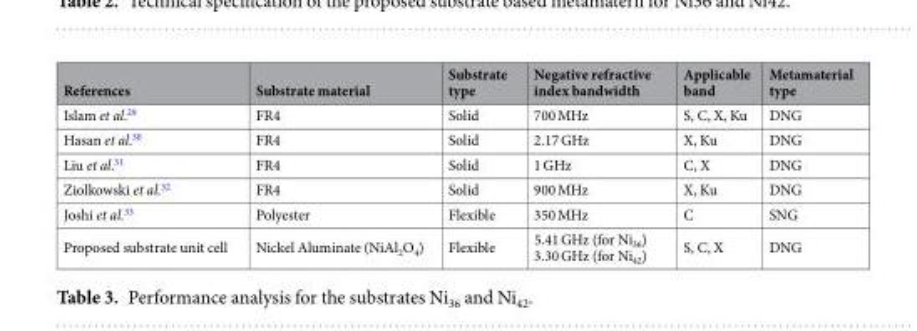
<table><thead><tr><td>References</td><td>Substrate material</td><td>Substrate type</td><td>Negative refractive index bandwidth</td><td>Applicable band</td><td>Metamaterial type</td></tr></thead><tbody><tr><td>Islam et al.<sup>29</sup></td><td>FR4</td><td>Solid</td><td>700 MHz</td><td>S, C, X, Ku</td><td>DNG</td></tr><tr><td>Hasan et al.<sup>30</sup></td><td>FR4</td><td>Solid</td><td>2.17 GHz</td><td>X, Ku</td><td>DNG</td></tr><tr><td>Liu et al.<sup>31</sup></td><td>FR4</td><td>Solid</td><td>1 GHz</td><td>C, X</td><td>DNG</td></tr><tr><td>Ziolkowski et al.<sup>32</sup></td><td>FR4</td><td>Solid</td><td>900 MHz</td><td>X, Ku</td><td>DNG</td></tr><tr><td>Joshi et al.<sup>33</sup></td><td>Polyester</td><td>Flexible</td><td>350 MHz</td><td>C</td><td>SNG</td></tr><tr><td>Proposed substrate unit cell</td><td>Nickel Aluminate (NiAl<sub>2</sub>O<sub>4</sub>)</td><td>Flexible</td><td>5.41 GHz (for Ni<sub>36</sub>) 3.30 GHz (for Ni<sub>42</sub>)</td><td>S, C, X</td><td>DNG</td></tr></tbody></table>